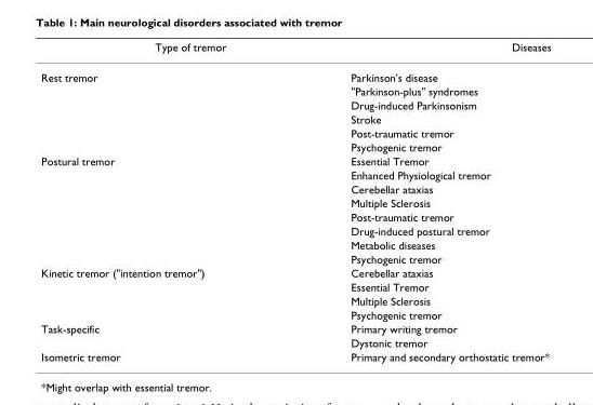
<table><thead><tr><td>Type of tremor</td><td>Diseases</td></tr></thead><tbody><tr><td rowspan="6">Rest tremor</td><td>Parkinson&#x27;s disease</td></tr><tr><td>&quot;Parkinson-plus&quot; syndromes</td></tr><tr><td>Drug-induced Parkinsonism</td></tr><tr><td>Stroke</td></tr><tr><td>Post-traumatic tremor</td></tr><tr><td>Psychogenic tremor</td></tr><tr><td rowspan="8">Postural tremor</td><td>Essential Tremor</td></tr><tr><td>Enhanced Physiological tremor</td></tr><tr><td>Cerebellar ataxias</td></tr><tr><td>Multiple Sclerosis</td></tr><tr><td>Post-traumatic tremor</td></tr><tr><td>Drug-induced postural tremor</td></tr><tr><td>Metabolic diseases</td></tr><tr><td>Psychogenic tremor</td></tr><tr><td rowspan="4">Kinetic tremor (&quot;intention tremor&quot;)</td><td>Cerebellar ataxias</td></tr><tr><td>Essential Tremor</td></tr><tr><td>Multiple Sclerosis</td></tr><tr><td>Psychogenic tremor</td></tr><tr><td rowspan="2">Task-specific</td><td>Primary writing tremor</td></tr><tr><td>Dystonic tremor</td></tr><tr><td>Isometric tremor</td><td>Primary and secondary orthostatic tremor*</td></tr></tbody></table>